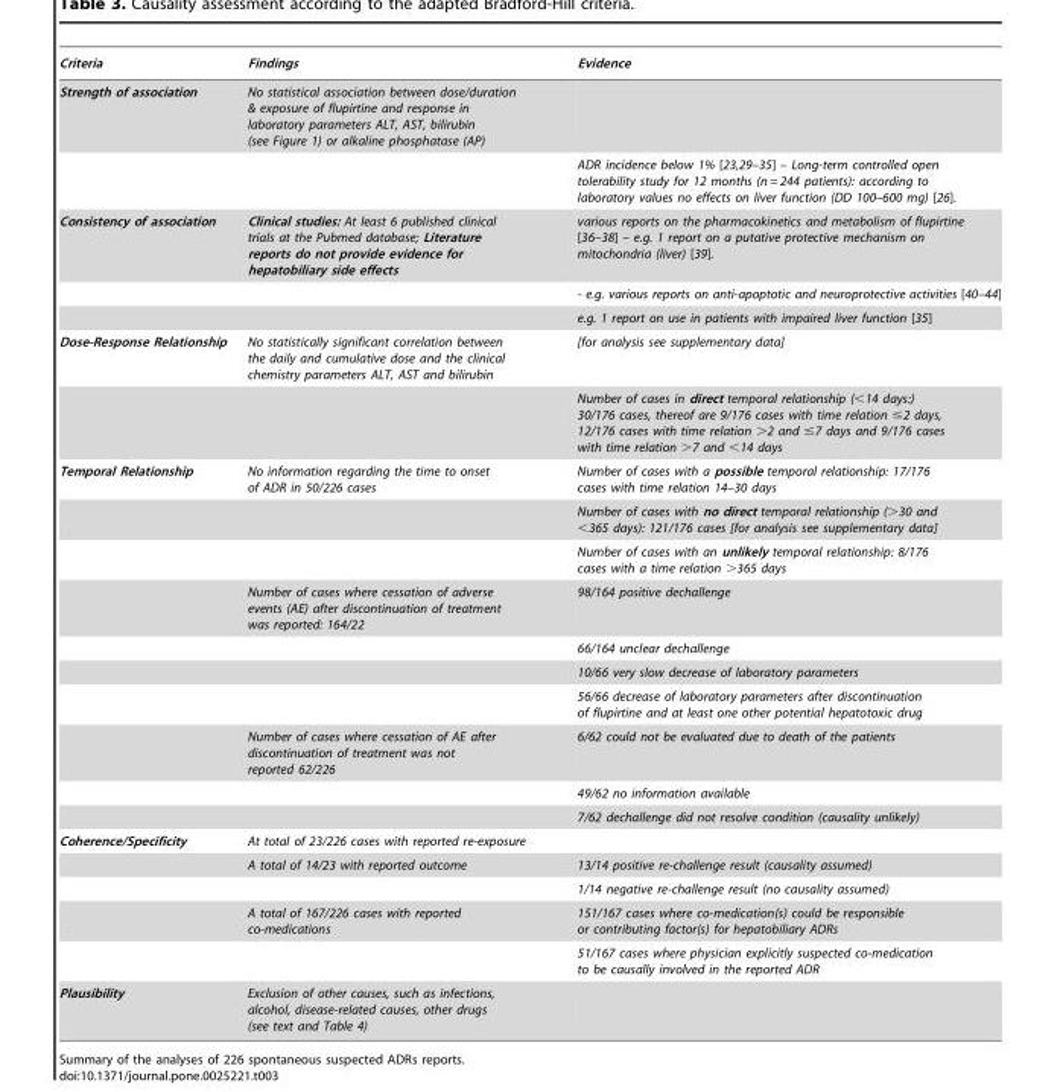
<table><thead><tr><td>Criteria</td><td>Findings</td><td>Evidence</td></tr></thead><tbody><tr><td rowspan="2">Strength of association</td><td>No statistical association between dose/duration &amp; exposure of flupirtine and response in laboratory parameters ALT, AST, bilirubin (see Figure 1) or alkaline phosphatase (AP)</td><td></td></tr><tr><td></td><td>ADR incidence below 1% [23,29–35] – Long-term controlled open tolerability study for 12 months (n = 244 patients): according to laboratory values no effects on liver function (DD 100–600 mg) [26].</td></tr><tr><td rowspan="3">Consistency of association</td><td>Clinical studies: At least 6 published clinical trials at the Pubmed database; Literature reports do not provide evidence for hepatobiliary side effects</td><td>various reports on the pharmacokinetics and metabolism of flupirtine [36–38] – e.g. 1 report on a putative protective mechanism on mitochondria (liver) [39].</td></tr><tr><td></td><td>- e.g. various reports on anti-apoptotic and neuroprotective activities [40–44]</td></tr><tr><td></td><td>e.g. 1 report on use in patients with impaired liver function [35]</td></tr><tr><td rowspan="2">Dose-Response Relationship</td><td>No statistically significant correlation between the daily and cumulative dose and the clinical chemistry parameters ALT, AST and bilirubin</td><td>[for analysis see supplementary data]</td></tr><tr><td></td><td>Number of cases in direct temporal relationship (&lt;14 days:) 30/176 cases, thereof are 9/176 cases with time relation ≤2 days, 12/176 cases with time relation &gt;2 and ≤7 days and 9/176 cases with time relation &gt;7 and &lt;14 days</td></tr><tr><td rowspan="10">Temporal Relationship</td><td>No information regarding the time to onset of ADR in 50/226 cases</td><td>Number of cases with a possible temporal relationship: 17/176 cases with time relation 14–30 days</td></tr><tr><td></td><td>Number of cases with no direct temporal relationship (&gt;30 and &lt;365 days): 121/176 cases [for analysis see supplementary data]</td></tr><tr><td></td><td>Number of cases with an unlikely temporal relationship: 8/176 cases with a time relation &gt;365 days</td></tr><tr><td>Number of cases where cessation of adverse events (AE) after discontinuation of treatment was reported: 164/22</td><td>98/164 positive dechallenge</td></tr><tr><td></td><td>66/164 unclear dechallenge</td></tr><tr><td></td><td>10/66 very slow decrease of laboratory parameters</td></tr><tr><td></td><td>56/66 decrease of laboratory parameters after discontinuation of flupirtine and at least one other potential hepatotoxic drug</td></tr><tr><td>Number of cases where cessation of AE after discontinuation of treatment was not reported 62/226</td><td>6/62 could not be evaluated due to death of the patients</td></tr><tr><td></td><td>49/62 no information available</td></tr><tr><td></td><td>7/62 dechallenge did not resolve condition (causality unlikely)</td></tr><tr><td rowspan="5">Coherence/Specificity</td><td>At total of 23/226 cases with reported re-exposure</td><td></td></tr><tr><td>A total of 14/23 with reported outcome</td><td>13/14 positive re-challenge result (causality assumed)</td></tr><tr><td></td><td>1/14 negative re-challenge result (no causality assumed)</td></tr><tr><td>A total of 167/226 cases with reported co-medications</td><td>151/167 cases where co-medication(s) could be responsible or contributing factor(s) for hepatobiliary ADRs</td></tr><tr><td></td><td>51/167 cases where physician explicitly suspected co-medication to be causally involved in the reported ADR</td></tr><tr><td>Plausibility</td><td>Exclusion of other causes, such as infections, alcohol, disease-related causes, other drugs (see text and Table 4)</td><td></td></tr></tbody></table>